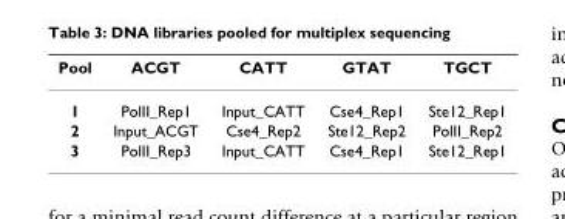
<table><thead><tr><td>Pool</td><td>ACGT</td><td>CATT</td><td>GTAT</td><td>TGCT</td></tr></thead><tbody><tr><td>1</td><td>PolII_Rep1</td><td>Input_CATT</td><td>Cse4_Rep1</td><td>Ste12_Rep1</td></tr><tr><td>2</td><td>Input_ACGT</td><td>Cse4_Rep2</td><td>Ste12_Rep2</td><td>PolII_Rep2</td></tr><tr><td>3</td><td>PolII_Rep3</td><td>Input_CATT</td><td>Cse4_Rep1</td><td>Ste12_Rep1</td></tr></tbody></table>